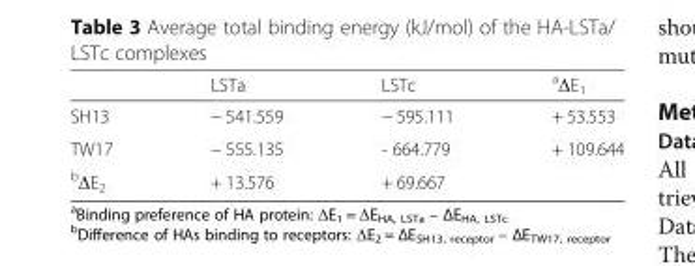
<table><thead><tr><td></td><td>LSTa</td><td>LSTc</td><td><sup>a</sup>ΔE<sub>1</sub></td></tr></thead><tbody><tr><td>SH13</td><td>− 541.559</td><td>− 595.111</td><td>+ 53.553</td></tr><tr><td>TW17</td><td>− 555.135</td><td>- 664.779</td><td>+ 109.644</td></tr><tr><td><sup>b</sup>ΔE<sub>2</sub></td><td>+ 13.576</td><td>+ 69.667</td><td></td></tr></tbody></table>